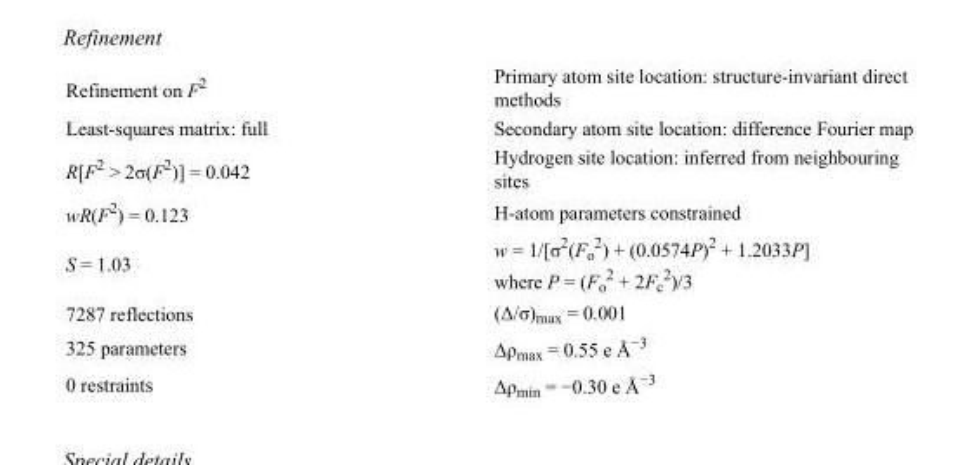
<table><tbody><tr><td>Refinement on F<sup>2</sup></td><td>Primary atom site location: structure-invariant direct methods</td></tr><tr><td>Least-squares matrix: full</td><td>Secondary atom site location: difference Fourier map</td></tr><tr><td>R[F<sup>2</sup> &gt; 2σ(F<sup>2</sup>)] = 0.042</td><td>Hydrogen site location: inferred from neighbouring sites</td></tr><tr><td>wR(F<sup>2</sup>) = 0.123</td><td>H-atom parameters constrained</td></tr><tr><td>S = 1.03</td><td>w = 1/[σ<sup>2</sup>(F<sub>o</sub> <sup>2</sup>) + (0.0574P)<sup>2</sup> + 1.2033P] where P = (F<sub>o</sub> <sup>2</sup> + 2F<sub>c</sub> <sup>2</sup>)/3</td></tr><tr><td>7287 reflections</td><td>(Δ/σ)<sub>max</sub> = 0.001</td></tr><tr><td>325 parameters</td><td>Δρ<sub>max</sub> = 0.55 e Å<sup>−3</sup></td></tr><tr><td>0 restraints</td><td>Δρ<sub>min</sub> = −0.30 e Å<sup>−3</sup></td></tr></tbody></table>